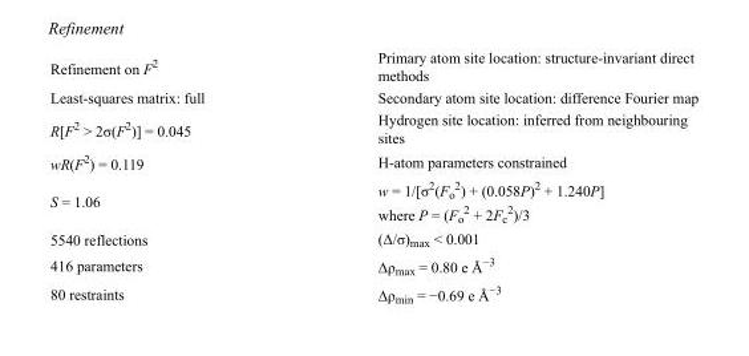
<table><tbody><tr><td>Refinement on F<sup>2</sup></td><td>Primary atom site location: structure-invariant direct methods</td></tr><tr><td>Least-squares matrix: full</td><td>Secondary atom site location: difference Fourier map</td></tr><tr><td>R[F<sup>2</sup> &gt; 2σ(F<sup>2</sup>)] = 0.045</td><td>Hydrogen site location: inferred from neighbouring sites</td></tr><tr><td>wR(F<sup>2</sup>) = 0.119</td><td>H-atom parameters constrained</td></tr><tr><td>S = 1.06</td><td>w = 1/[σ<sup>2</sup>(F<sub>o</sub> <sup>2</sup>) + (0.058P)<sup>2</sup> + 1.240P] where P = (F<sub>o</sub> <sup>2</sup> + 2F<sub>c</sub> <sup>2</sup>)/3</td></tr><tr><td>5540 reflections</td><td>(Δ/σ)<sub>max</sub> &lt; 0.001</td></tr><tr><td>416 parameters</td><td>Δρ<sub>max</sub> = 0.80 e Å<sup>−3</sup></td></tr><tr><td>80 restraints</td><td>Δρ<sub>min</sub> = −0.69 e Å<sup>−3</sup></td></tr></tbody></table>